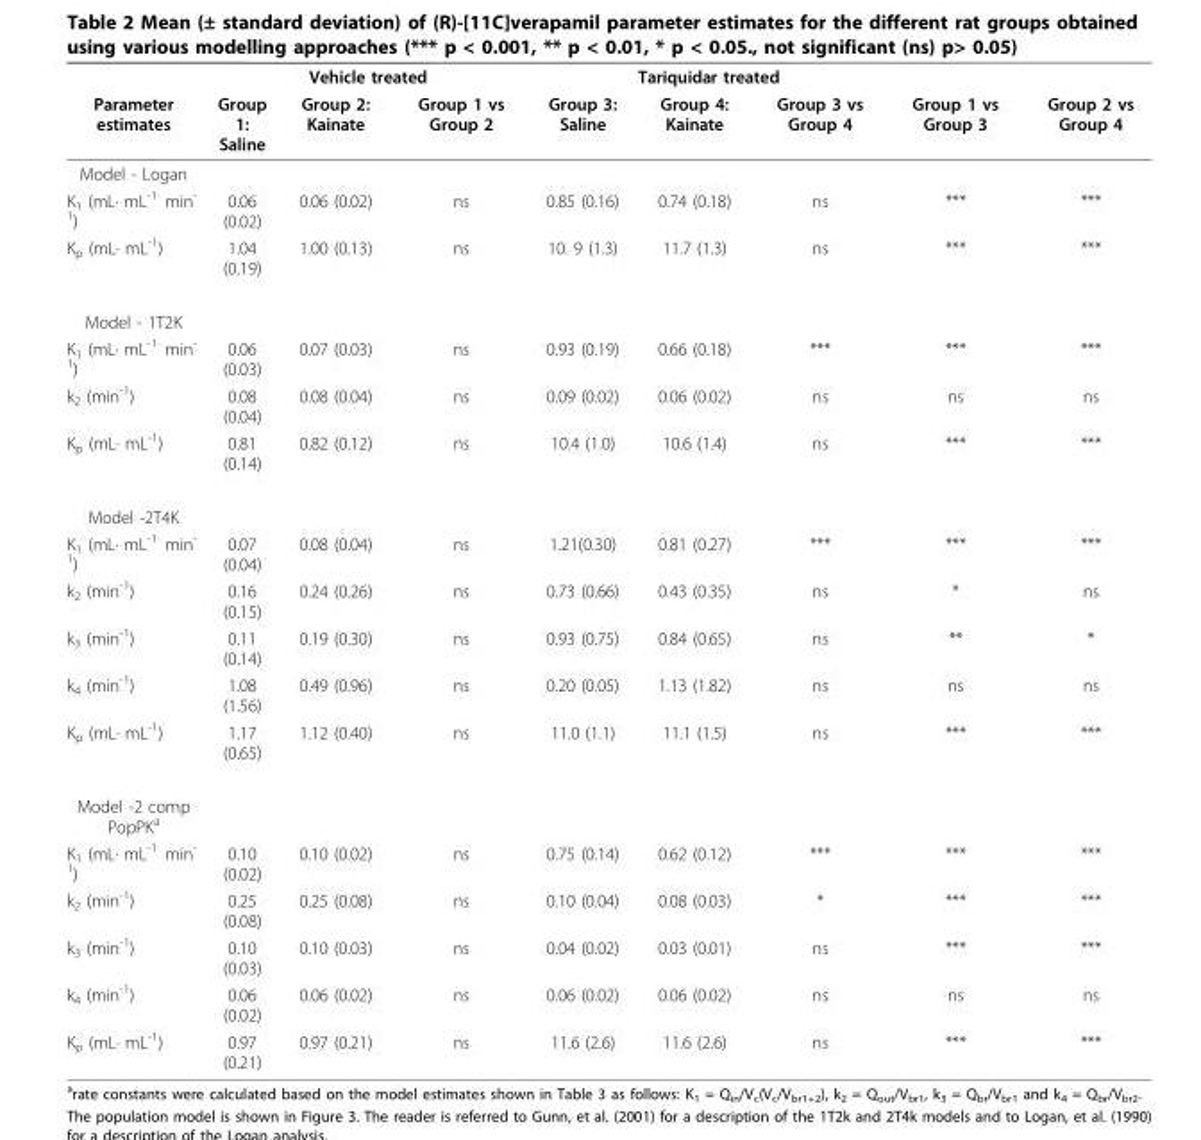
<table><thead><tr><td rowspan="2">Parameter estimates</td><td colspan="3">Vehicle treated</td><td colspan="3">Tariquidar treated</td><td rowspan="2">Group 1 vs Group 3</td><td rowspan="2">Group 2 vs Group 4</td></tr><tr><td>Group 1: Saline</td><td>Group 2: Kainate</td><td>Group 1 vs Group 2</td><td>Group 3: Saline</td><td>Group 4: Kainate</td><td>Group 3 vs Group 4</td></tr></thead><tbody><tr><td colspan="9">Model - Logan</td></tr><tr><td>K<sub>1</sub> (mL· mL<sup>-1·</sup> min<sup>- 1</sup>)</td><td>0.06 (0.02)</td><td>0.06 (0.02)</td><td>ns</td><td>0.85 (0.16)</td><td>0.74 (0.18)</td><td>ns</td><td>***</td><td>***</td></tr><tr><td>K<sub>p</sub> (mL· mL<sup>-1</sup>)</td><td>1.04 (0.19)</td><td>1.00 (0.13)</td><td>ns</td><td>10. 9 (1.3)</td><td>11.7 (1.3)</td><td>ns</td><td>***</td><td>***</td></tr><tr><td colspan="9">Model - 1T2K</td></tr><tr><td>K<sub>1</sub> (mL· mL<sup>-1·</sup> min<sup>- 1</sup>)</td><td>0.06 (0.03)</td><td>0.07 (0.03)</td><td>ns</td><td>0.93 (0.19)</td><td>0.66 (0.18)</td><td>***</td><td>***</td><td>***</td></tr><tr><td>k<sub>2</sub> (min<sup>-1</sup>)</td><td>0.08 (0.04)</td><td>0.08 (0.04)</td><td>ns</td><td>0.09 (0.02)</td><td>0.06 (0.02)</td><td>ns</td><td>ns</td><td>ns</td></tr><tr><td>K<sub>p</sub> (mL· mL<sup>-1</sup>)</td><td>0.81 (0.14)</td><td>0.82 (0.12)</td><td>ns</td><td>10.4 (1.0)</td><td>10.6 (1.4)</td><td>ns</td><td>***</td><td>***</td></tr><tr><td colspan="9">Model -2T4K</td></tr><tr><td>K<sub>1</sub> (mL· mL<sup>-1·</sup> min<sup>- 1</sup>)</td><td>0.07 (0.04)</td><td>0.08 (0.04)</td><td>ns</td><td>1.21(0.30)</td><td>0.81 (0.27)</td><td>***</td><td>***</td><td>***</td></tr><tr><td>k<sub>2</sub> (min<sup>-1</sup>)</td><td>0.16 (0.15)</td><td>0.24 (0.26)</td><td>ns</td><td>0.73 (0.66)</td><td>0.43 (0.35)</td><td>ns</td><td>*</td><td>ns</td></tr><tr><td>k<sub>3</sub> (min<sup>-1</sup>)</td><td>0.11 (0.14)</td><td>0.19 (0.30)</td><td>ns</td><td>0.93 (0.75)</td><td>0.84 (0.65)</td><td>ns</td><td>**</td><td>*</td></tr><tr><td>k<sub>4</sub> (min<sup>-1</sup>)</td><td>1.08 (1.56)</td><td>0.49 (0.96)</td><td>ns</td><td>0.20 (0.05)</td><td>1.13 (1.82)</td><td>ns</td><td>ns</td><td>ns</td></tr><tr><td>K<sub>p</sub> (mL· mL<sup>-1</sup>)</td><td>1.17 (0.65)</td><td>1.12 (0.40)</td><td>ns</td><td>11.0 (1.1)</td><td>11.1 (1.5)</td><td>ns</td><td>***</td><td>***</td></tr><tr><td colspan="9">Model -2 comp PopPK<sup>a</sup></td></tr><tr><td>K<sub>1</sub> (mL· mL<sup>-1·</sup> min<sup>- 1</sup>)</td><td>0.10 (0.02)</td><td>0.10 (0.02)</td><td>ns</td><td>0.75 (0.14)</td><td>0.62 (0.12)</td><td>***</td><td>***</td><td>***</td></tr><tr><td>k<sub>2</sub> (min<sup>-1</sup>)</td><td>0.25 (0.08)</td><td>0.25 (0.08)</td><td>ns</td><td>0.10 (0.04)</td><td>0.08 (0.03)</td><td>*</td><td>***</td><td>***</td></tr><tr><td>k<sub>3</sub> (min<sup>-1</sup>)</td><td>0.10 (0.03)</td><td>0.10 (0.03)</td><td>ns</td><td>0.04 (0.02)</td><td>0.03 (0.01)</td><td>ns</td><td>***</td><td>***</td></tr><tr><td>k<sub>4</sub> (min<sup>-1</sup>)</td><td>0.06 (0.02)</td><td>0.06 (0.02)</td><td>ns</td><td>0.06 (0.02)</td><td>0.06 (0.02)</td><td>ns</td><td>ns</td><td>ns</td></tr><tr><td>K<sub>p</sub> (mL· mL<sup>-1</sup>)</td><td>0.97 (0.21)</td><td>0.97 (0.21)</td><td>ns</td><td>11.6 (2.6)</td><td>11.6 (2.6)</td><td>ns</td><td>***</td><td>***</td></tr></tbody></table>